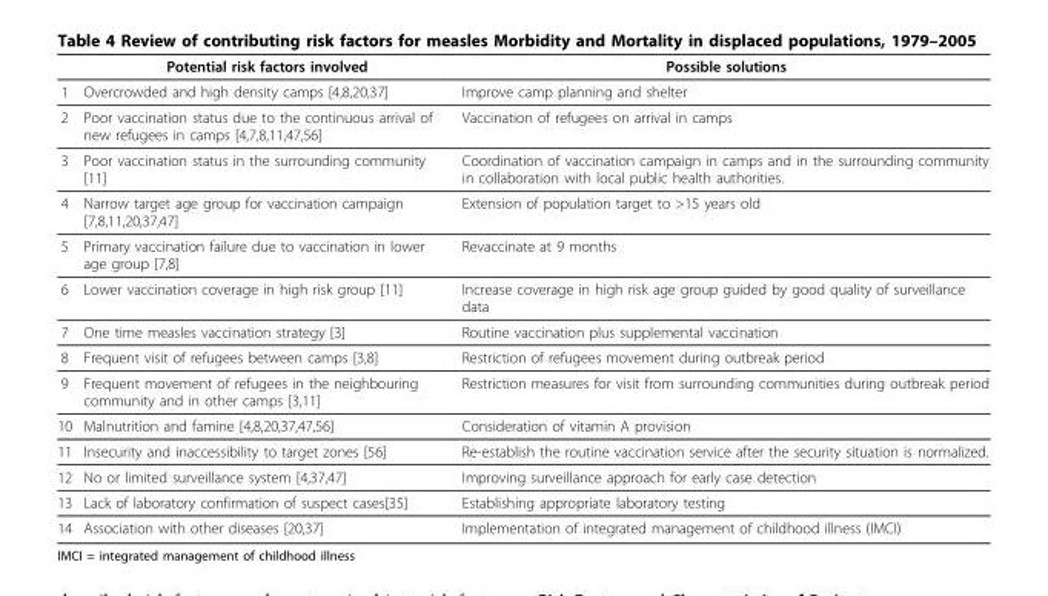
<table><thead><tr><td></td><td>Potential risk factors involved</td><td>Possible solutions</td></tr></thead><tbody><tr><td>1</td><td>Overcrowded and high density camps [4,8,20,37]</td><td>Improve camp planning and shelter</td></tr><tr><td>2</td><td>Poor vaccination status due to the continuous arrival of new refugees in camps [4,7,8,11,47,56]</td><td>Vaccination of refugees on arrival in camps</td></tr><tr><td>3</td><td>Poor vaccination status in the surrounding community [11]</td><td>Coordination of vaccination campaign in camps and in the surrounding community in collaboration with local public health authorities.</td></tr><tr><td>4</td><td>Narrow target age group for vaccination campaign [7,8,11,20,37,47]</td><td>Extension of population target to &gt;15 years old</td></tr><tr><td>5</td><td>Primary vaccination failure due to vaccination in lower age group [7,8]</td><td>Revaccinate at 9 months</td></tr><tr><td>6</td><td>Lower vaccination coverage in high risk group [11]</td><td>Increase coverage in high risk age group guided by good quality of surveillance data</td></tr><tr><td>7</td><td>One time measles vaccination strategy [3]</td><td>Routine vaccination plus supplemental vaccination</td></tr><tr><td>8</td><td>Frequent visit of refugees between camps [3,8]</td><td>Restriction of refugees movement during outbreak period</td></tr><tr><td>9</td><td>Frequent movement of refugees in the neighbouring community and in other camps [3,11]</td><td>Restriction measures for visit from surrounding communities during outbreak period</td></tr><tr><td>10</td><td>Malnutrition and famine [4,8,20,37,47,56]</td><td>Consideration of vitamin A provision</td></tr><tr><td>11</td><td>Insecurity and inaccessibility to target zones [56]</td><td>Re-establish the routine vaccination service after the security situation is normalized.</td></tr><tr><td>12</td><td>No or limited surveillance system [4,37,47]</td><td>Improving surveillance approach for early case detection</td></tr><tr><td>13</td><td>Lack of laboratory confirmation of suspect cases[35]</td><td>Establishing appropriate laboratory testing</td></tr><tr><td>14</td><td>Association with other diseases [20,37]</td><td>Implementation of integrated management of childhood illness (IMCI)</td></tr></tbody></table>